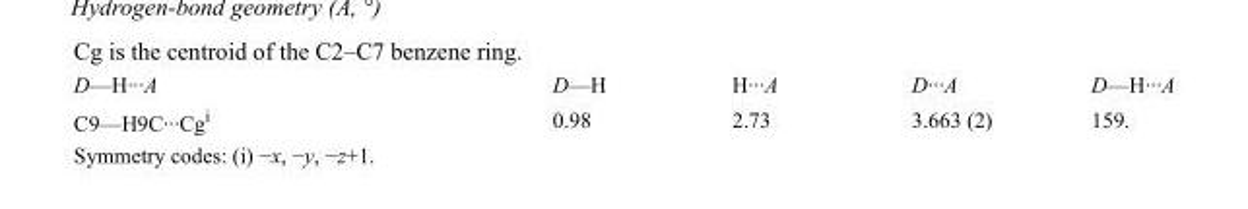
<table><tbody><tr><td>D—H···A</td><td>D—H</td><td>H···A</td><td>D···A</td><td>D—H···A</td></tr><tr><td>C9—H9C···Cg<sup>i</sup></td><td>0.98</td><td>2.73</td><td>3.663 (2)</td><td>159.</td></tr></tbody></table>